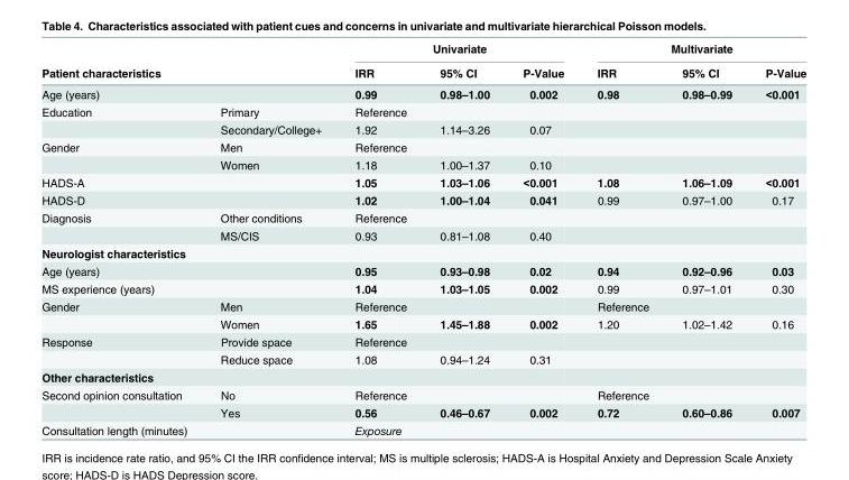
<table><thead><tr><td rowspan="2">Patient characteristics</td><td rowspan="2"></td><td colspan="3">Univariate</td><td colspan="3">Multivariate</td></tr><tr><td>IRR</td><td>95% CI</td><td>P-Value</td><td>IRR</td><td>95% CI</td><td>P-Value</td></tr></thead><tbody><tr><td>Age (years)</td><td></td><td>0.99</td><td>0.98–1.00</td><td>0.002</td><td>0.98</td><td>0.98–0.99</td><td>&lt;0.001</td></tr><tr><td rowspan="2">Education</td><td>Primary</td><td>Reference</td><td></td><td></td><td></td><td></td><td></td></tr><tr><td>Secondary/College+</td><td>1.92</td><td>1.14–3.26</td><td>0.07</td><td></td><td></td><td></td></tr><tr><td rowspan="2">Gender</td><td>Men</td><td>Reference</td><td></td><td></td><td></td><td></td><td></td></tr><tr><td>Women</td><td>1.18</td><td>1.00–1.37</td><td>0.10</td><td></td><td></td><td></td></tr><tr><td>HADS-A</td><td></td><td>1.05</td><td>1.03–1.06</td><td>&lt;0.001</td><td>1.08</td><td>1.06–1.09</td><td>&lt;0.001</td></tr><tr><td>HADS-D</td><td></td><td>1.02</td><td>1.00–1.04</td><td>0.041</td><td>0.99</td><td>0.97–1.00</td><td>0.17</td></tr><tr><td rowspan="2">Diagnosis</td><td>Other conditions</td><td>Reference</td><td></td><td></td><td></td><td></td><td></td></tr><tr><td>MS/CIS</td><td>0.93</td><td>0.81–1.08</td><td>0.40</td><td></td><td></td><td></td></tr><tr><td colspan="8">Neurologist characteristics</td></tr><tr><td>Age (years)</td><td></td><td>0.95</td><td>0.93–0.98</td><td>0.02</td><td>0.94</td><td>0.92–0.96</td><td>0.03</td></tr><tr><td>MS experience (years)</td><td></td><td>1.04</td><td>1.03–1.05</td><td>0.002</td><td>0.99</td><td>0.97–1.01</td><td>0.30</td></tr><tr><td rowspan="2">Gender</td><td>Men</td><td>Reference</td><td></td><td></td><td>Reference</td><td></td><td></td></tr><tr><td>Women</td><td>1.65</td><td>1.45–1.88</td><td>0.002</td><td>1.20</td><td>1.02–1.42</td><td>0.16</td></tr><tr><td rowspan="2">Response</td><td>Provide space</td><td>Reference</td><td></td><td></td><td></td><td></td><td></td></tr><tr><td>Reduce space</td><td>1.08</td><td>0.94–1.24</td><td>0.31</td><td></td><td></td><td></td></tr><tr><td colspan="8">Other characteristics</td></tr><tr><td rowspan="2">Second opinion consultation</td><td>No</td><td>Reference</td><td></td><td></td><td>Reference</td><td></td><td></td></tr><tr><td>Yes</td><td>0.56</td><td>0.46–0.67</td><td>0.002</td><td>0.72</td><td>0.60–0.86</td><td>0.007</td></tr><tr><td>Consultation length (minutes)</td><td></td><td>Exposure</td><td></td><td></td><td></td><td></td><td></td></tr></tbody></table>